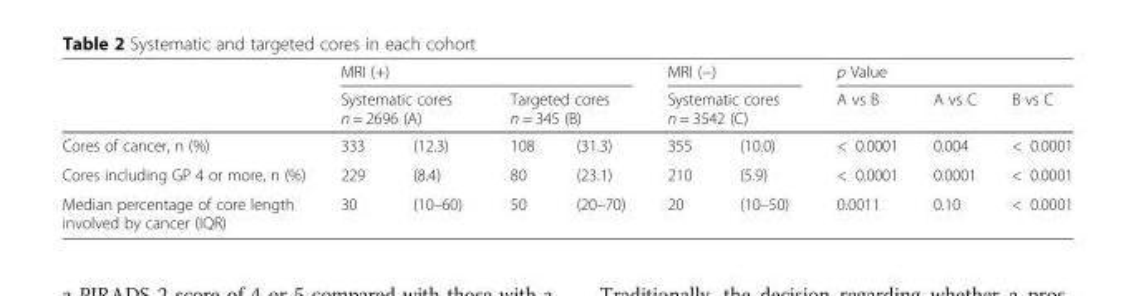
<table><thead><tr><td rowspan="3">Cores of cancer, n (%)</td><td colspan="4">MRI (+)</td><td rowspan="2" colspan="2">MRI (−) Systematic cores n = 3542 (C)</td><td colspan="3">p Value</td></tr><tr><td colspan="2">Systematic cores n = 2696 (A)</td><td colspan="2">Targeted cores n = 345 (B)</td><td rowspan="2">A vs B &lt; 0.0001</td><td rowspan="2">A vs C 0.004</td><td rowspan="2">B vs C &lt; 0.0001</td></tr><tr><td>333</td><td>(12.3)</td><td>108</td><td>(31.3)</td><td>355</td><td>(10.0)</td></tr></thead><tbody><tr><td>Cores including GP 4 or more, n (%)</td><td>229</td><td>(8.4)</td><td>80</td><td>(23.1)</td><td>210</td><td>(5.9)</td><td>&lt; 0.0001</td><td>0.0001</td><td>&lt; 0.0001</td></tr><tr><td>Median percentage of core length involved by cancer (IQR)</td><td>30</td><td>(10–60)</td><td>50</td><td>(20–70)</td><td>20</td><td>(10–50)</td><td>0.0011</td><td>0.10</td><td>&lt; 0.0001</td></tr></tbody></table>